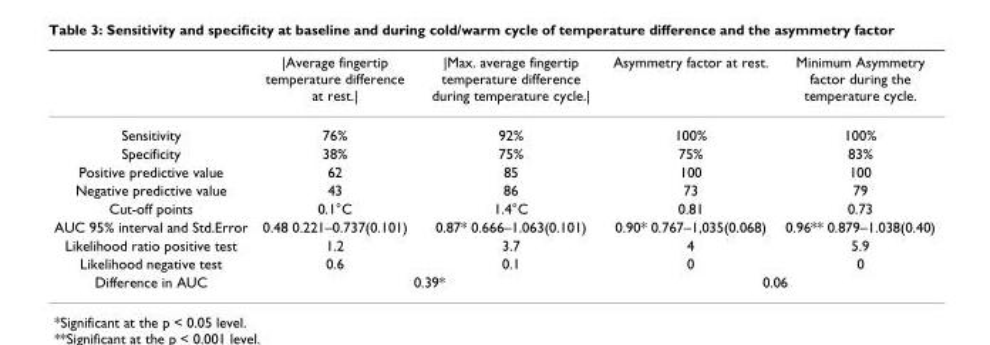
<table><thead><tr><td></td><td>|Average fingertip temperature difference at rest.|</td><td>|Max. average fingertip temperature difference during temperature cycle.|</td><td>Asymmetry factor at rest.</td><td>Minimum Asymmetry factor during the temperature cycle.</td></tr></thead><tbody><tr><td>Sensitivity</td><td>76%</td><td>92%</td><td>100%</td><td>100%</td></tr><tr><td>Specificity</td><td>38%</td><td>75%</td><td>75%</td><td>83%</td></tr><tr><td>Positive predictive value</td><td>62</td><td>85</td><td>100</td><td>100</td></tr><tr><td>Negative predictive value</td><td>43</td><td>86</td><td>73</td><td>79</td></tr><tr><td>Cut-off points</td><td>0.1°C</td><td>1.4°C</td><td>0.81</td><td>0.73</td></tr><tr><td>AUC 95% interval and Std.Error</td><td>0.48 0.221–0.737(0.101)</td><td>0.87* 0.666–1.063(0.101)</td><td>0.90* 0.767–1,035(0.068)</td><td>0.96** 0.879–1.038(0.40)</td></tr><tr><td>Likelihood ratio positive test</td><td>1.2</td><td>3.7</td><td>4</td><td>5.9</td></tr><tr><td>Likelihood negative test</td><td>0.6</td><td>0.1</td><td>0</td><td>0</td></tr><tr><td>Difference in AUC</td><td colspan="2">0.39*</td><td colspan="2">0.06</td></tr></tbody></table>